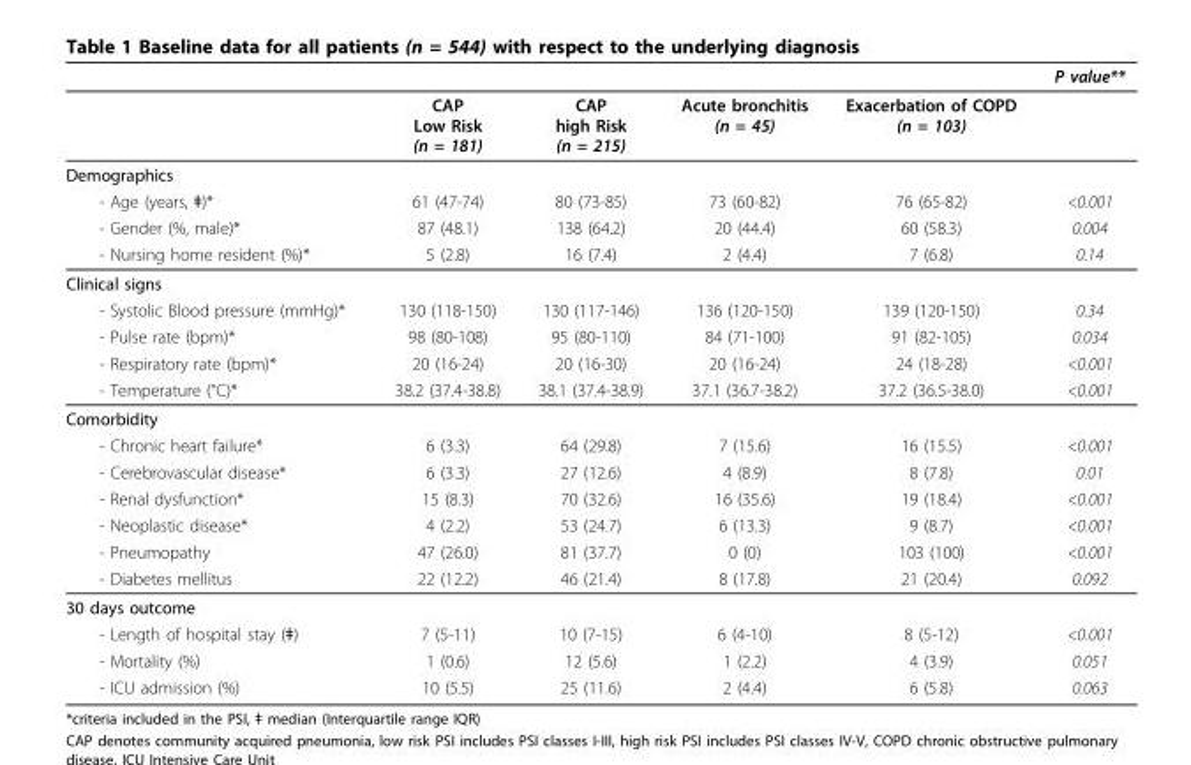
<table><thead><tr><td></td><td></td><td></td><td></td><td></td><td>P value**</td></tr></thead><tbody><tr><td></td><td>CAP Low Risk (n = 181)</td><td>CAP high Risk (n = 215)</td><td>Acute bronchitis (n = 45)</td><td>Exacerbation of COPD (n = 103)</td><td></td></tr><tr><td colspan="6">Demographics</td></tr><tr><td>- Age (years, ǂ)*</td><td>61 (47-74)</td><td>80 (73-85)</td><td>73 (60-82)</td><td>76 (65-82)</td><td>&lt;0.001</td></tr><tr><td>- Gender (%, male)*</td><td>87 (48.1)</td><td>138 (64.2)</td><td>20 (44.4)</td><td>60 (58.3)</td><td>0.004</td></tr><tr><td>- Nursing home resident (%)*</td><td>5 (2.8)</td><td>16 (7.4)</td><td>2 (4.4)</td><td>7 (6.8)</td><td>0.14</td></tr><tr><td colspan="6">Clinical signs</td></tr><tr><td>- Systolic Blood pressure (mmHg)*</td><td>130 (118-150)</td><td>130 (117-146)</td><td>136 (120-150)</td><td>139 (120-150)</td><td>0.34</td></tr><tr><td>- Pulse rate (bpm)*</td><td>98 (80-108)</td><td>95 (80-110)</td><td>84 (71-100)</td><td>91 (82-105)</td><td>0.034</td></tr><tr><td>- Respiratory rate (bpm)*</td><td>20 (16-24)</td><td>20 (16-30)</td><td>20 (16-24)</td><td>24 (18-28)</td><td>&lt;0.001</td></tr><tr><td>- Temperature (°C)*</td><td>38.2 (37.4-38.8)</td><td>38.1 (37.4-38.9)</td><td>37.1 (36.7-38.2)</td><td>37.2 (36.5-38.0)</td><td>&lt;0.001</td></tr><tr><td colspan="6">Comorbidity</td></tr><tr><td>- Chronic heart failure*</td><td>6 (3.3)</td><td>64 (29.8)</td><td>7 (15.6)</td><td>16 (15.5)</td><td>&lt;0.001</td></tr><tr><td>- Cerebrovascular disease*</td><td>6 (3.3)</td><td>27 (12.6)</td><td>4 (8.9)</td><td>8 (7.8)</td><td>0.01</td></tr><tr><td>- Renal dysfunction*</td><td>15 (8.3)</td><td>70 (32.6)</td><td>16 (35.6)</td><td>19 (18.4)</td><td>&lt;0.001</td></tr><tr><td>- Neoplastic disease*</td><td>4 (2.2)</td><td>53 (24.7)</td><td>6 (13.3)</td><td>9 (8.7)</td><td>&lt;0.001</td></tr><tr><td>- Pneumopathy</td><td>47 (26.0)</td><td>81 (37.7)</td><td>0 (0)</td><td>103 (100)</td><td>&lt;0.001</td></tr><tr><td>- Diabetes mellitus</td><td>22 (12.2)</td><td>46 (21.4)</td><td>8 (17.8)</td><td>21 (20.4)</td><td>0.092</td></tr><tr><td colspan="6">30 days outcome</td></tr><tr><td>- Length of hospital stay (ǂ)</td><td>7 (5-11)</td><td>10 (7-15)</td><td>6 (4-10)</td><td>8 (5-12)</td><td>&lt;0.001</td></tr><tr><td>- Mortality (%)</td><td>1 (0.6)</td><td>12 (5.6)</td><td>1 (2.2)</td><td>4 (3.9)</td><td>0.051</td></tr><tr><td>- ICU admission (%)</td><td>10 (5.5)</td><td>25 (11.6)</td><td>2 (4.4)</td><td>6 (5.8)</td><td>0.063</td></tr></tbody></table>